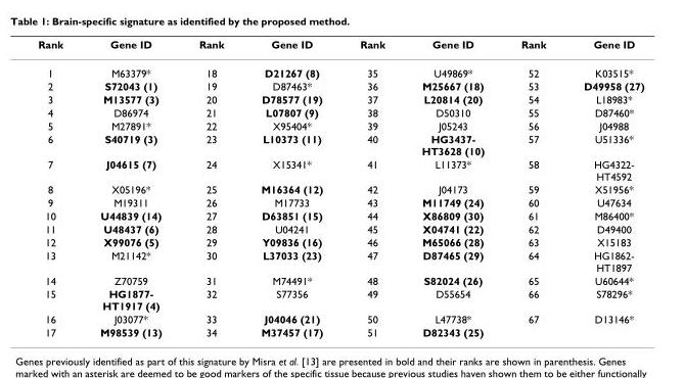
<table><thead><tr><td>Rank</td><td>Gene ID</td><td>Rank</td><td>Gene ID</td><td>Rank</td><td>Gene ID</td><td>Rank</td><td>Gene ID</td></tr></thead><tbody><tr><td>1</td><td>M63379*</td><td>18</td><td>D21267 (8)</td><td>35</td><td>U49869*</td><td>52</td><td>K03515*</td></tr><tr><td>2</td><td>S72043 (1)</td><td>19</td><td>D87463*</td><td>36</td><td>M25667 (18)</td><td>53</td><td>D49958 (27)</td></tr><tr><td>3</td><td>M13577 (3)</td><td>20</td><td>D78577 (19)</td><td>37</td><td>L20814 (20)</td><td>54</td><td>L18983*</td></tr><tr><td>4</td><td>D86974</td><td>21</td><td>L07807 (9)</td><td>38</td><td>D50310</td><td>55</td><td>D87460*</td></tr><tr><td>5</td><td>M27891*</td><td>22</td><td>X95404*</td><td>39</td><td>J05243</td><td>56</td><td>J04988</td></tr><tr><td>6</td><td>S40719 (3)</td><td>23</td><td>L10373 (11)</td><td>40</td><td>HG3437- HT3628 (10)</td><td>57</td><td>U51336*</td></tr><tr><td>7</td><td>J04615 (7)</td><td>24</td><td>X15341*</td><td>41</td><td>L11373*</td><td>58</td><td>HG4322- HT4592</td></tr><tr><td>8</td><td>X05196*</td><td>25</td><td>M16364 (12)</td><td>42</td><td>J04173</td><td>59</td><td>X51956*</td></tr><tr><td>9</td><td>M19311</td><td>26</td><td>M17733</td><td>43</td><td>M11749 (24)</td><td>60</td><td>U47634</td></tr><tr><td>10</td><td>U44839 (14)</td><td>27</td><td>D63851 (15)</td><td>44</td><td>X86809 (30)</td><td>61</td><td>M86400*</td></tr><tr><td>11</td><td>U48437 (6)</td><td>28</td><td>U04241</td><td>45</td><td>X04741 (22)</td><td>62</td><td>D49400</td></tr><tr><td>12</td><td>X99076 (5)</td><td>29</td><td>Y09836 (16)</td><td>46</td><td>M65066 (28)</td><td>63</td><td>X15183</td></tr><tr><td>13</td><td>M21142*</td><td>30</td><td>L37033 (23)</td><td>47</td><td>D87465 (29)</td><td>64</td><td>HG1862- HT1897</td></tr><tr><td>14</td><td>Z70759</td><td>31</td><td>M74491*</td><td>48</td><td>S82024 (26)</td><td>65</td><td>U60644*</td></tr><tr><td>15</td><td>HG1877- HT1917 (4)</td><td>32</td><td>S77356</td><td>49</td><td>D55654</td><td>66</td><td>S78296*</td></tr><tr><td>16</td><td>J03077*</td><td>33</td><td>J04046 (21)</td><td>50</td><td>L47738*</td><td>67</td><td>D13146*</td></tr><tr><td>17</td><td>M98539 (13)</td><td>34</td><td>M37457 (17)</td><td>51</td><td>D82343 (25)</td><td></td><td></td></tr></tbody></table>